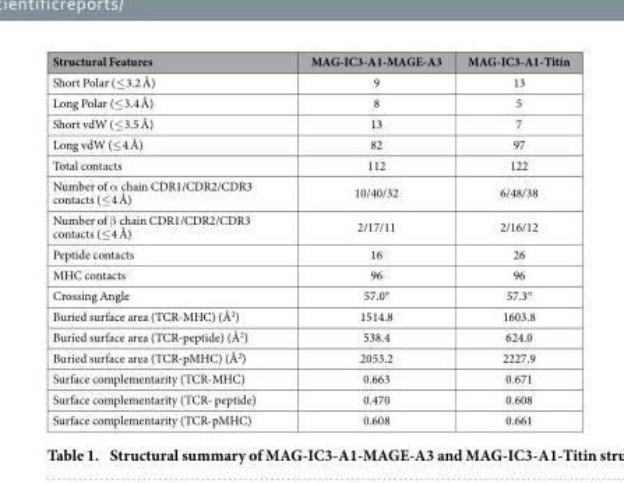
<table><thead><tr><td>Structural Features</td><td>MAG-IC3-A1-MAGE-A3</td><td>MAG-IC3-A1-Titin</td></tr></thead><tbody><tr><td>Short Polar (≤ 3.2 Å)</td><td>9</td><td>13</td></tr><tr><td>Long Polar (≤ 3.4 Å)</td><td>8</td><td>5</td></tr><tr><td>Short vdW (≤ 3.5 Å)</td><td>13</td><td>7</td></tr><tr><td>Long vdW (≤ 4 Å)</td><td>82</td><td>97</td></tr><tr><td>Total contacts</td><td>112</td><td>122</td></tr><tr><td>Number of α chain CDR1/CDR2/CDR3 contacts (≤ 4 Å)</td><td>10/40/32</td><td>6/48/38</td></tr><tr><td>Number of β chain CDR1/CDR2/CDR3 contacts (≤ 4 Å)</td><td>2/17/11</td><td>2/16/12</td></tr><tr><td>Peptide contacts</td><td>16</td><td>26</td></tr><tr><td>MHC contacts</td><td>96</td><td>96</td></tr><tr><td>Crossing Angle</td><td>57.0°</td><td>57.3°</td></tr><tr><td>Buried surface area (TCR-MHC) (Å<sup>2</sup>)</td><td>1514.8</td><td>1603.8</td></tr><tr><td>Buried surface area (TCR-peptide) (Å<sup>2</sup>)</td><td>538.4</td><td>624.0</td></tr><tr><td>Buried surface area (TCR-pMHC) (Å<sup>2</sup>)</td><td>2053.2</td><td>2227.9</td></tr><tr><td>Surface complementarity (TCR-MHC)</td><td>0.663</td><td>0.671</td></tr><tr><td>Surface complementarity (TCR- peptide)</td><td>0.470</td><td>0.608</td></tr><tr><td>Surface complementarity (TCR-pMHC)</td><td>0.608</td><td>0.661</td></tr></tbody></table>